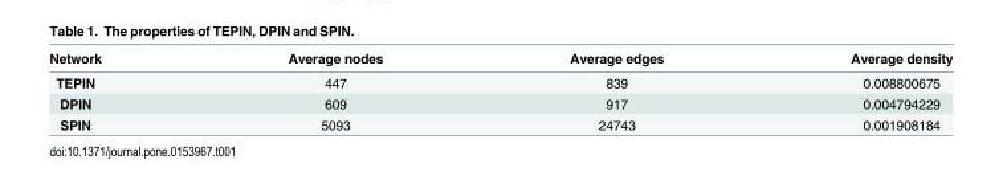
<table><thead><tr><td>Network</td><td>Average nodes</td><td>Average edges</td><td>Average density</td></tr></thead><tbody><tr><td>TEPIN</td><td>447</td><td>839</td><td>0.008800675</td></tr><tr><td>DPIN</td><td>609</td><td>917</td><td>0.004794229</td></tr><tr><td>SPIN</td><td>5093</td><td>24743</td><td>0.001908184</td></tr></tbody></table>